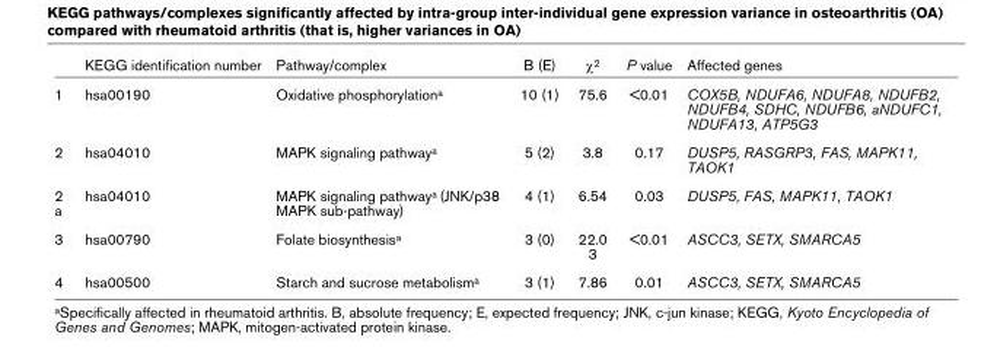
<table><thead><tr><td></td><td>KEGG identification number</td><td>Pathway/complex</td><td>B (E)</td><td>χ<sup>2</sup></td><td>P value</td><td>Affected genes</td></tr></thead><tbody><tr><td>1</td><td>hsa00190</td><td>Oxidative phosphorylation<sup>a</sup></td><td>10 (1)</td><td>75.6</td><td>&lt;0.01</td><td>COX5B, NDUFA6, NDUFA8, NDUFB2, NDUFB4, SDHC, NDUFB6, aNDUFC1, NDUFA13, ATP5G3</td></tr><tr><td>2</td><td>hsa04010</td><td>MAPK signaling pathway<sup>a</sup></td><td>5 (2)</td><td>3.8</td><td>0.17</td><td>DUSP5, RASGRP3, FAS, MAPK11, TAOK1</td></tr><tr><td>2 a</td><td>hsa04010</td><td>MAPK signaling pathway<sup>a</sup> (JNK/p38 MAPK sub-pathway)</td><td>4 (1)</td><td>6.54</td><td>0.03</td><td>DUSP5, FAS, MAPK11, TAOK1</td></tr><tr><td>3</td><td>hsa00790</td><td>Folate biosynthesis<sup>a</sup></td><td>3 (0)</td><td>22.0 3</td><td>&lt;0.01</td><td>ASCC3, SETX, SMARCA5</td></tr><tr><td>4</td><td>hsa00500</td><td>Starch and sucrose metabolism<sup>a</sup></td><td>3 (1)</td><td>7.86</td><td>0.01</td><td>ASCC3, SETX, SMARCA5</td></tr></tbody></table>